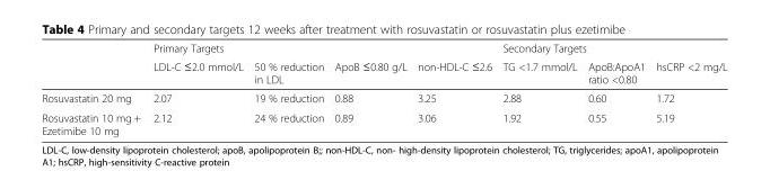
<table><thead><tr><td rowspan="2"></td><td colspan="4">Primary Targets</td><td colspan="3">Secondary Targets</td></tr><tr><td>LDL-C ≤2.0 mmol/L</td><td>50 % reduction in LDL</td><td>ApoB ≤0.80 g/L</td><td>non-HDL-C ≤2.6</td><td>TG &lt;1.7 mmol/L</td><td>ApoB:ApoA1 ratio &lt;0.80</td><td>hsCRP &lt;2 mg/L</td></tr></thead><tbody><tr><td>Rosuvastatin 20 mg</td><td>2.07</td><td>19 % reduction</td><td>0.88</td><td>3.25</td><td>2.88</td><td>0.60</td><td>1.72</td></tr><tr><td>Rosuvastatin 10 mg + Ezetimibe 10 mg</td><td>2.12</td><td>24 % reduction</td><td>0.89</td><td>3.06</td><td>1.92</td><td>0.55</td><td>5.19</td></tr></tbody></table>